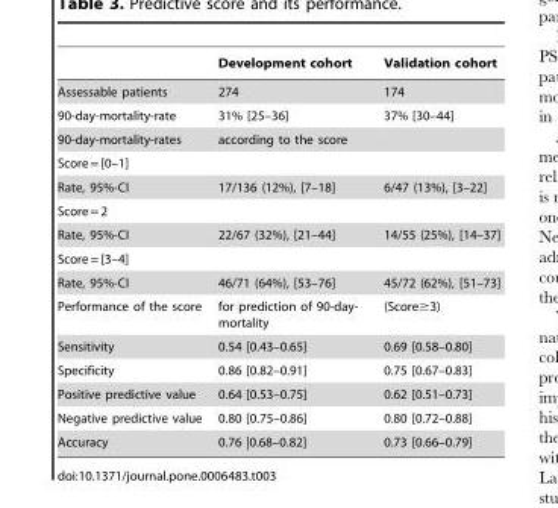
<table><thead><tr><td></td><td>Development cohort</td><td>Validation cohort</td></tr></thead><tbody><tr><td>Assessable patients</td><td>274</td><td>174</td></tr><tr><td>90-day-mortality-rate</td><td>31% [25–36]</td><td>37% [30–44]</td></tr><tr><td>90-day-mortality-rates</td><td>according to the score</td><td></td></tr><tr><td colspan="3">Score = [0–1]</td></tr><tr><td>Rate, 95%-CI</td><td>17/136 (12%), [7–18]</td><td>6/47 (13%), [3–22]</td></tr><tr><td colspan="3">Score = 2</td></tr><tr><td>Rate, 95%-CI</td><td>22/67 (32%), [21–44]</td><td>14/55 (25%), [14–37]</td></tr><tr><td colspan="3">Score = [3–4]</td></tr><tr><td>Rate, 95%-CI</td><td>46/71 (64%), [53–76]</td><td>45/72 (62%), [51–73]</td></tr><tr><td>Performance of the score</td><td>for prediction of 90-day- mortality</td><td>(Score≥3)</td></tr><tr><td>Sensitivity</td><td>0.54 [0.43–0.65]</td><td>0.69 [0.58–0.80]</td></tr><tr><td>Specificity</td><td>0.86 [0.82–0.91]</td><td>0.75 [0.67–0.83]</td></tr><tr><td>Positive predictive value</td><td>0.64 [0.53–0.75]</td><td>0.62 [0.51–0.73]</td></tr><tr><td>Negative predictive value</td><td>0.80 [0.75–0.86]</td><td>0.80 [0.72–0.88]</td></tr><tr><td>Accuracy</td><td>0.76 |0.68–0.82]</td><td>0.73 [0.66–0.79]</td></tr></tbody></table>